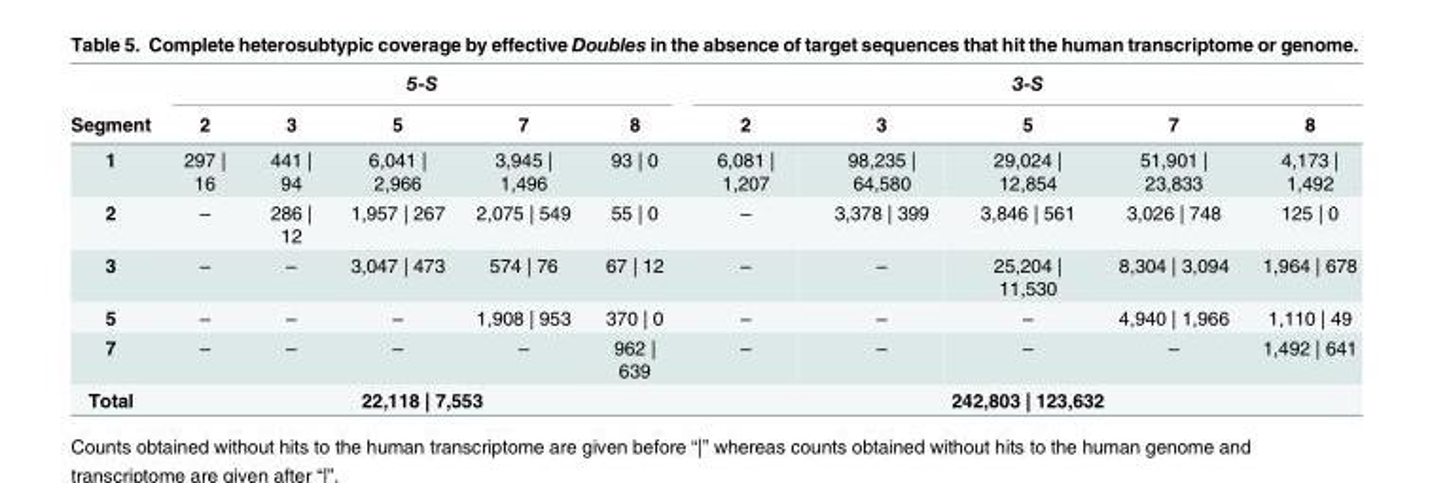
<table><thead><tr><td rowspan="2">Segment</td><td colspan="5">5-S</td><td colspan="5">3-S</td></tr><tr><td>2</td><td>3</td><td>5</td><td>7</td><td>8</td><td>2</td><td>3</td><td>5</td><td>7</td><td>8</td></tr></thead><tbody><tr><td>1</td><td>297 | 16</td><td>441 | 94</td><td>6,041 | 2,966</td><td>3,945 | 1,496</td><td>93 | 0</td><td>6,081 | 1,207</td><td>98,235 | 64,580</td><td>29,024 | 12,854</td><td>51,901 | 23,833</td><td>4,173 | 1,492</td></tr><tr><td>2</td><td>–</td><td>286 | 12</td><td>1,957 | 267</td><td>2,075 | 549</td><td>55 | 0</td><td>–</td><td>3,378 | 399</td><td>3,846 | 561</td><td>3,026 | 748</td><td>125 | 0</td></tr><tr><td>3</td><td>–</td><td>–</td><td>3,047 | 473</td><td>574 | 76</td><td>67 | 12</td><td>–</td><td>–</td><td>25,204 | 11,530</td><td>8,304 | 3,094</td><td>1,964 | 678</td></tr><tr><td>5</td><td>–</td><td>–</td><td>–</td><td>1,908 | 953</td><td>370 | 0</td><td>–</td><td>–</td><td>–</td><td>4,940 | 1,966</td><td>1,110 | 49</td></tr><tr><td>7</td><td>–</td><td>–</td><td>–</td><td>–</td><td>962 | 639</td><td>–</td><td>–</td><td>–</td><td>–</td><td>1,492 | 641</td></tr><tr><td>Total</td><td colspan="5">22,118 | 7,553</td><td colspan="5">242,803 | 123,632</td></tr></tbody></table>